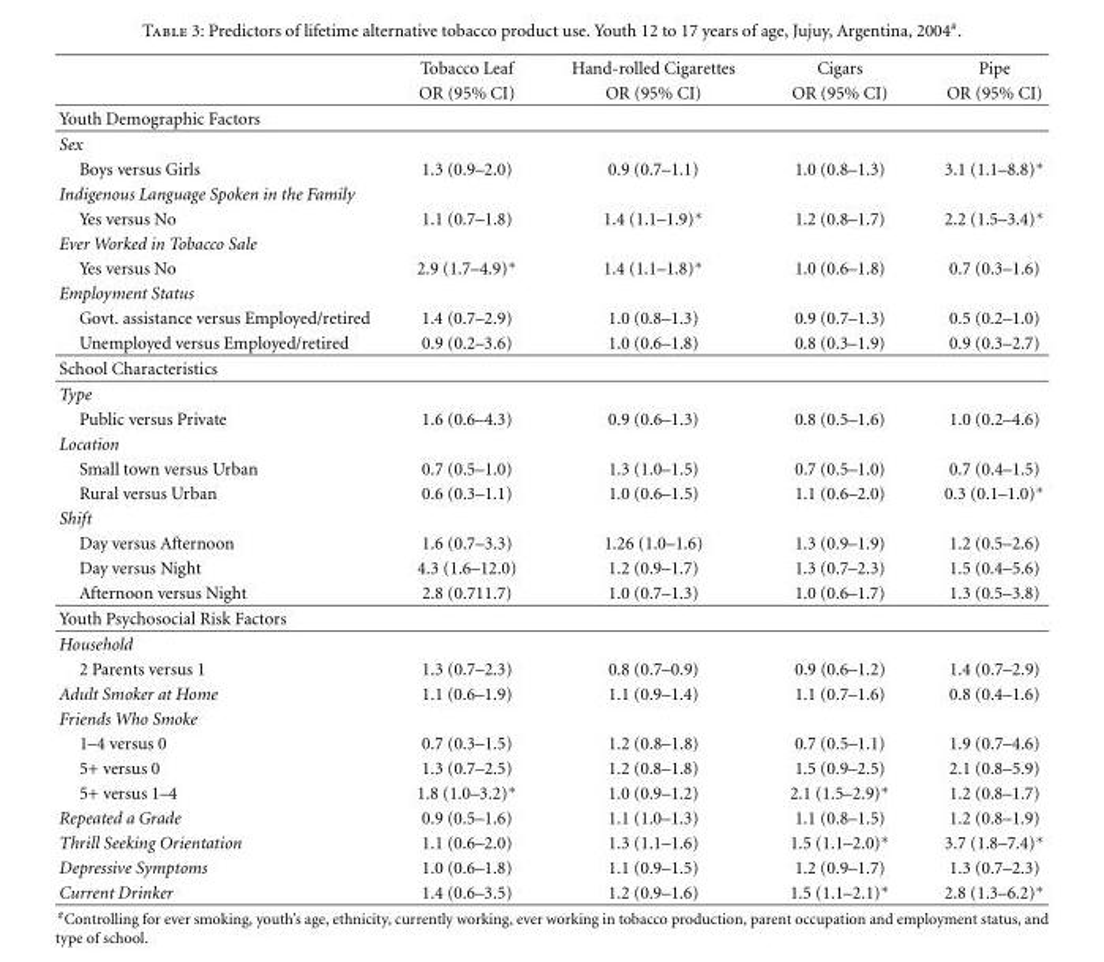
<table><thead><tr><td rowspan="2"></td><td rowspan="2">Tobacco Leaf OR (95% CI)</td><td rowspan="2">Hand-rolled Cigarettes OR (95% CI)</td><td rowspan="2">Cigars OR (95% CI)</td><td rowspan="2">Pipe OR (95% CI)</td></tr><tr></tr></thead><tbody><tr><td colspan="5">Youth Demographic Factors</td></tr><tr><td colspan="5">Sex</td></tr><tr><td>Boys versus Girls</td><td>1.3 (0.9–2.0)</td><td>0.9 (0.7–1.1)</td><td>1.0 (0.8–1.3)</td><td>3.1 (1.1–8.8)∗</td></tr><tr><td colspan="5">Indigenous Language Spoken in the Family</td></tr><tr><td>Yes versus No</td><td>1.1 (0.7–1.8)</td><td>1.4 (1.1–1.9)∗</td><td>1.2 (0.8–1.7)</td><td>2.2 (1.5–3.4)∗</td></tr><tr><td colspan="5">Ever Worked in Tobacco Sale</td></tr><tr><td>Yes versus No</td><td>2.9 (1.7–4.9)∗</td><td>1.4 (1.1–1.8)∗</td><td>1.0 (0.6–1.8)</td><td>0.7 (0.3–1.6)</td></tr><tr><td colspan="5">Employment Status</td></tr><tr><td>Govt. assistance versus Employed/retired</td><td>1.4 (0.7–2.9)</td><td>1.0 (0.8–1.3)</td><td>0.9 (0.7–1.3)</td><td>0.5 (0.2–1.0)</td></tr><tr><td>Unemployed versus Employed/retired</td><td>0.9 (0.2–3.6)</td><td>1.0 (0.6–1.8)</td><td>0.8 (0.3–1.9)</td><td>0.9 (0.3–2.7)</td></tr><tr><td colspan="5">School Characteristics</td></tr><tr><td colspan="5">Type</td></tr><tr><td>Public versus Private</td><td>1.6 (0.6–4.3)</td><td>0.9 (0.6–1.3)</td><td>0.8 (0.5–1.6)</td><td>1.0 (0.2–4.6)</td></tr><tr><td colspan="5">Location</td></tr><tr><td>Small town versus Urban</td><td>0.7 (0.5–1.0)</td><td>1.3 (1.0–1.5)</td><td>0.7 (0.5–1.0)</td><td>0.7 (0.4–1.5)</td></tr><tr><td>Rural versus Urban</td><td>0.6 (0.3–1.1)</td><td>1.0 (0.6–1.5)</td><td>1.1 (0.6–2.0)</td><td>0.3 (0.1–1.0)∗</td></tr><tr><td colspan="5">Shift</td></tr><tr><td>Day versus Afternoon</td><td>1.6 (0.7–3.3)</td><td>1.26 (1.0–1.6)</td><td>1.3 (0.9–1.9)</td><td>1.2 (0.5–2.6)</td></tr><tr><td>Day versus Night</td><td>4.3 (1.6–12.0)</td><td>1.2 (0.9–1.7)</td><td>1.3 (0.7–2.3)</td><td>1.5 (0.4–5.6)</td></tr><tr><td>Afternoon versus Night</td><td>2.8 (0.711.7)</td><td>1.0 (0.7–1.3)</td><td>1.0 (0.6–1.7)</td><td>1.3 (0.5–3.8)</td></tr><tr><td colspan="5">Youth Psychosocial Risk Factors</td></tr><tr><td colspan="5">Household</td></tr><tr><td>2 Parents versus 1</td><td>1.3 (0.7–2.3)</td><td>0.8 (0.7–0.9)</td><td>0.9 (0.6–1.2)</td><td>1.4 (0.7–2.9)</td></tr><tr><td>Adult Smoker at Home</td><td>1.1 (0.6–1.9)</td><td>1.1 (0.9–1.4)</td><td>1.1 (0.7–1.6)</td><td>0.8 (0.4–1.6)</td></tr><tr><td colspan="5">Friends Who Smoke</td></tr><tr><td>1–4 versus 0</td><td>0.7 (0.3–1.5)</td><td>1.2 (0.8–1.8)</td><td>0.7 (0.5–1.1)</td><td>1.9 (0.7–4.6)</td></tr><tr><td>5+ versus 0</td><td>1.3 (0.7–2.5)</td><td>1.2 (0.8–1.8)</td><td>1.5 (0.9–2.5)</td><td>2.1 (0.8–5.9)</td></tr><tr><td>5+ versus 1–4</td><td>1.8 (1.0–3.2)∗</td><td>1.0 (0.9–1.2)</td><td>2.1 (1.5–2.9)∗</td><td>1.2 (0.8–1.7)</td></tr><tr><td>Repeated a Grade</td><td>0.9 (0.5–1.6)</td><td>1.1 (1.0–1.3)</td><td>1.1 (0.8–1.5)</td><td>1.2 (0.8–1.9)</td></tr><tr><td>Thrill Seeking Orientation</td><td>1.1 (0.6–2.0)</td><td>1.3 (1.1–1.6)</td><td>1.5 (1.1–2.0)∗</td><td>3.7 (1.8–7.4)∗</td></tr><tr><td>Depressive Symptoms</td><td>1.0 (0.6–1.8)</td><td>1.1 (0.9–1.5)</td><td>1.2 (0.9–1.7)</td><td>1.3 (0.7–2.3)</td></tr><tr><td>Current Drinker</td><td>1.4 (0.6–3.5)</td><td>1.2 (0.9–1.6)</td><td>1.5 (1.1–2.1)∗</td><td>2.8 (1.3–6.2)∗</td></tr></tbody></table>